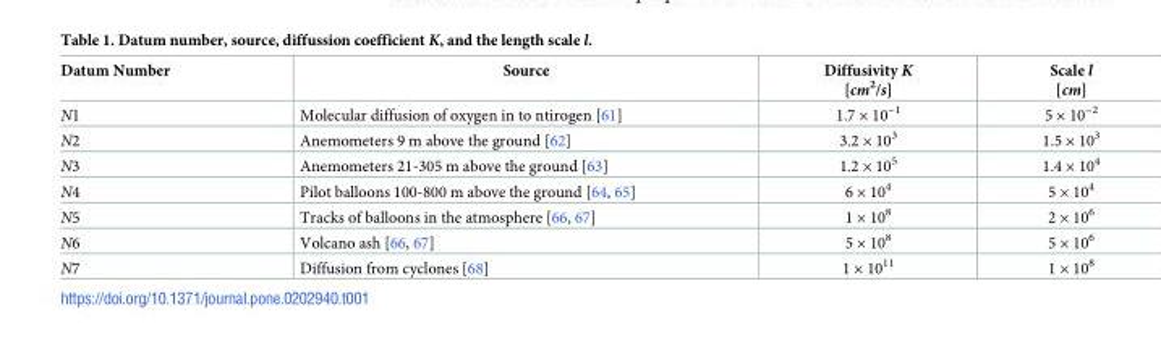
<table><thead><tr><td>Datum Number</td><td>Source</td><td>Diffusivity K [cm<sup>2</sup>/s]</td><td>Scale l [cm]</td></tr></thead><tbody><tr><td>N1</td><td>Molecular diffusion of oxygen in to ntirogen [61]</td><td>1.7 × 10<sup>−1</sup></td><td>5 × 10<sup>−2</sup></td></tr><tr><td>N2</td><td>Anemometers 9 m above the ground [62]</td><td>3.2 × 10<sup>3</sup></td><td>1.5 × 10<sup>3</sup></td></tr><tr><td>N3</td><td>Anemometers 21-305 m above the ground [63]</td><td>1.2 × 10<sup>5</sup></td><td>1.4 × 10<sup>4</sup></td></tr><tr><td>N4</td><td>Pilot balloons 100-800 m above the ground [64, 65]</td><td>6 × 10<sup>4</sup></td><td>5 × 10<sup>4</sup></td></tr><tr><td>N5</td><td>Tracks of balloons in the atmosphere [66, 67]</td><td>1 × 10<sup>8</sup></td><td>2 × 10<sup>6</sup></td></tr><tr><td>N6</td><td>Volcano ash [66, 67]</td><td>5 × 10<sup>8</sup></td><td>5 × 10<sup>6</sup></td></tr><tr><td>N7</td><td>Diffusion from cyclones [68]</td><td>1 × 10<sup>11</sup></td><td>1 × 10<sup>8</sup></td></tr></tbody></table>